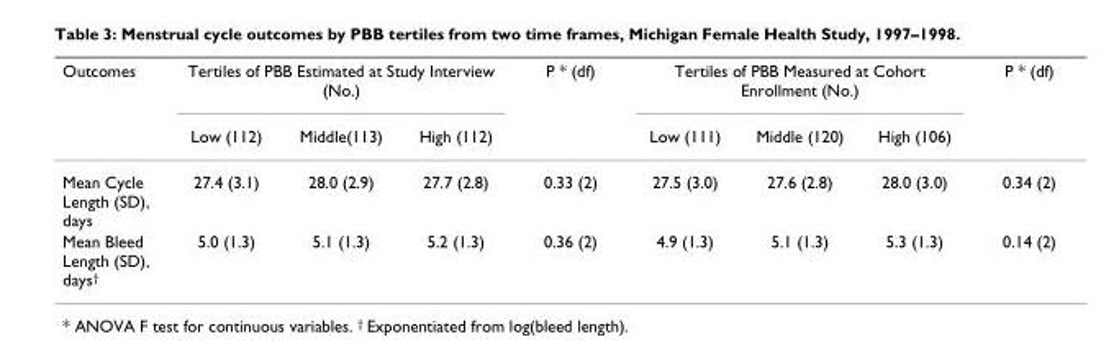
<table><thead><tr><td rowspan="2">Outcomes</td><td colspan="3">Tertiles of PBB Estimated at Study Interview (No.)</td><td rowspan="2">P * (df)</td><td colspan="3">Tertiles of PBB Measured at Cohort Enrollment (No.)</td><td rowspan="2">P * (df)</td></tr><tr><td>Low (112)</td><td>Middle(113)</td><td>High (112)</td><td>Low (111)</td><td>Middle (120)</td><td>High (106)</td></tr></thead><tbody><tr><td>Mean Cycle Length (SD), days</td><td>27.4 (3.1)</td><td>28.0 (2.9)</td><td>27.7 (2.8)</td><td>0.33 (2)</td><td>27.5 (3.0)</td><td>27.6 (2.8)</td><td>28.0 (3.0)</td><td>0.34 (2)</td></tr><tr><td>Mean Bleed Length (SD), days<sup>†</sup></td><td>5.0 (1.3)</td><td>5.1 (1.3)</td><td>5.2 (1.3)</td><td>0.36 (2)</td><td>4.9 (1.3)</td><td>5.1 (1.3)</td><td>5.3 (1.3)</td><td>0.14 (2)</td></tr></tbody></table>